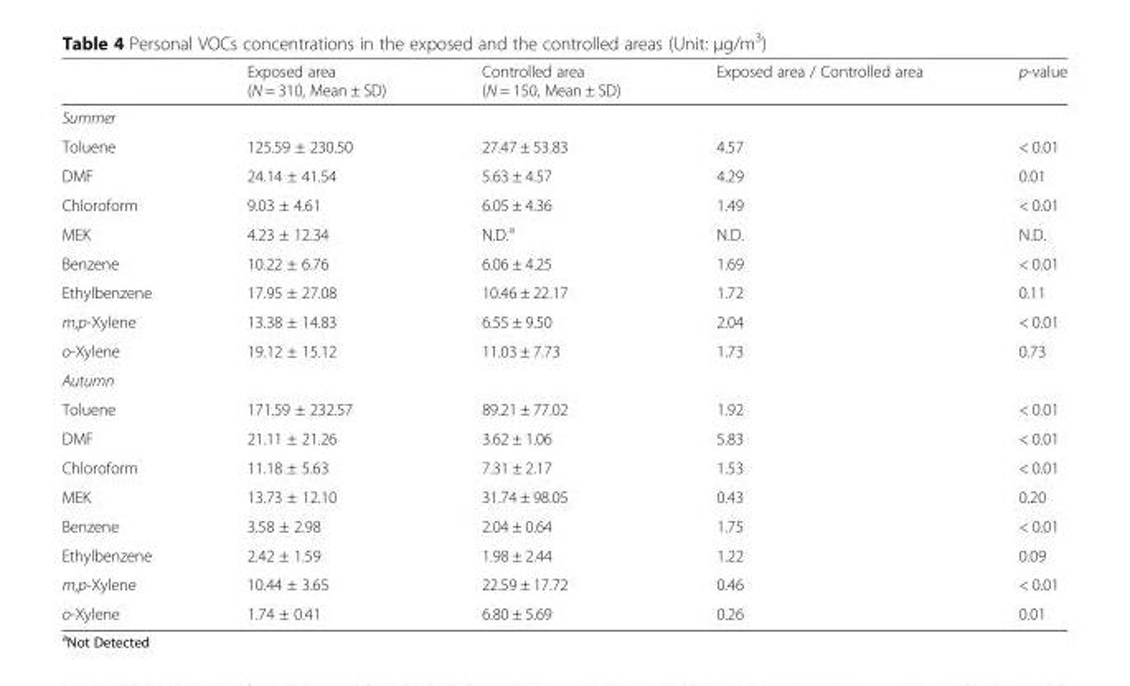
<table><thead><tr><td></td><td>Exposed area (N = 310, Mean ± SD)</td><td>Controlled area (N = 150, Mean ± SD)</td><td>Exposed area / Controlled area</td><td>p-value</td></tr></thead><tbody><tr><td colspan="5">Summer</td></tr><tr><td>Toluene</td><td>125.59 ± 230.50</td><td>27.47 ± 53.83</td><td>4.57</td><td>&lt; 0.01</td></tr><tr><td>DMF</td><td>24.14 ± 41.54</td><td>5.63 ± 4.57</td><td>4.29</td><td>0.01</td></tr><tr><td>Chloroform</td><td>9.03 ± 4.61</td><td>6.05 ± 4.36</td><td>1.49</td><td>&lt; 0.01</td></tr><tr><td>MEK</td><td>4.23 ± 12.34</td><td>N.D.<sup>a</sup></td><td>N.D.</td><td>N.D.</td></tr><tr><td>Benzene</td><td>10.22 ± 6.76</td><td>6.06 ± 4.25</td><td>1.69</td><td>&lt; 0.01</td></tr><tr><td>Ethylbenzene</td><td>17.95 ± 27.08</td><td>10.46 ± 22.17</td><td>1.72</td><td>0.11</td></tr><tr><td>m,p-Xylene</td><td>13.38 ± 14.83</td><td>6.55 ± 9.50</td><td>2.04</td><td>&lt; 0.01</td></tr><tr><td>o-Xylene</td><td>19.12 ± 15.12</td><td>11.03 ± 7.73</td><td>1.73</td><td>0.73</td></tr><tr><td colspan="5">Autumn</td></tr><tr><td>Toluene</td><td>171.59 ± 232.57</td><td>89.21 ± 77.02</td><td>1.92</td><td>&lt; 0.01</td></tr><tr><td>DMF</td><td>21.11 ± 21.26</td><td>3.62 ± 1.06</td><td>5.83</td><td>&lt; 0.01</td></tr><tr><td>Chloroform</td><td>11.18 ± 5.63</td><td>7.31 ± 2.17</td><td>1.53</td><td>&lt; 0.01</td></tr><tr><td>MEK</td><td>13.73 ± 12.10</td><td>31.74 ± 98.05</td><td>0.43</td><td>0.20</td></tr><tr><td>Benzene</td><td>3.58 ± 2.98</td><td>2.04 ± 0.64</td><td>1.75</td><td>&lt; 0.01</td></tr><tr><td>Ethylbenzene</td><td>2.42 ± 1.59</td><td>1.98 ± 2.44</td><td>1.22</td><td>0.09</td></tr><tr><td>m,p-Xylene</td><td>10.44 ± 3.65</td><td>22.59 ± 17.72</td><td>0.46</td><td>&lt; 0.01</td></tr><tr><td>o-Xylene</td><td>1.74 ± 0.41</td><td>6.80 ± 5.69</td><td>0.26</td><td>0.01</td></tr></tbody></table>